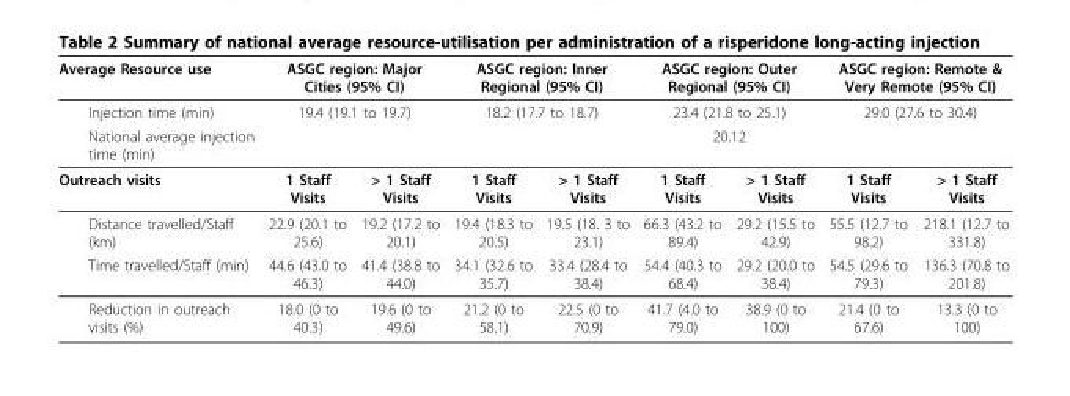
<table><thead><tr><td rowspan="4">Average Resource use Injection time (min) National average injection time (min) Outreach visits</td><td rowspan="2" colspan="2">ASGC region: Major Cities (95% CI) 19.4 (19.1 to 19.7)</td><td rowspan="2" colspan="2">ASGC region: Inner Regional (95% CI) 18.2 (17.7 to 18.7)</td><td rowspan="3" colspan="2">ASGC region: Outer Regional (95% CI) 23.4 (21.8 to 25.1) 20.12</td><td rowspan="2" colspan="2">ASGC region: Remote &amp; Very Remote (95% CI) 29.0 (27.6 to 30.4)</td></tr><tr></tr><tr><td rowspan="2">1 Staff Visits</td><td rowspan="2">&gt; 1 Staff Visits</td><td rowspan="2">1 Staff Visits</td><td rowspan="2">&gt; 1 Staff Visits</td><td rowspan="2">1 Staff Visits</td><td rowspan="2">&gt; 1 Staff Visits</td></tr><tr><td>1 Staff Visits</td><td>&gt; 1 Staff Visits</td></tr></thead><tbody><tr><td>Distance travelled/Staff (km)</td><td>22.9 (20.1 to 25.6)</td><td>19.2 (17.2 to 20.1)</td><td>19.4 (18.3 to 20.5)</td><td>19.5 (18. 3 to 23.1)</td><td>66.3 (43.2 to 89.4)</td><td>29.2 (15.5 to 42.9)</td><td>55.5 (12.7 to 98.2)</td><td>218.1 (12.7 to 331.8)</td></tr><tr><td>Time travelled/Staff (min)</td><td>44.6 (43.0 to 46.3)</td><td>41.4 (38.8 to 44.0)</td><td>34.1 (32.6 to 35.7)</td><td>33.4 (28.4 to 38.4)</td><td>54.4 (40.3 to 68.4)</td><td>29.2 (20.0 to 38.4)</td><td>54.5 (29.6 to 79.3)</td><td>136.3 (70.8 to 201.8)</td></tr><tr><td>Reduction in outreach visits (%)</td><td>18.0 (0 to 40.3)</td><td>19.6 (0 to 49.6)</td><td>21.2 (0 to 58.1)</td><td>22.5 (0 to 70.9)</td><td>41.7 (4.0 to 79.0)</td><td>38.9 (0 to 100)</td><td>21.4 (0 to 67.6)</td><td>13.3 (0 to 100)</td></tr></tbody></table>